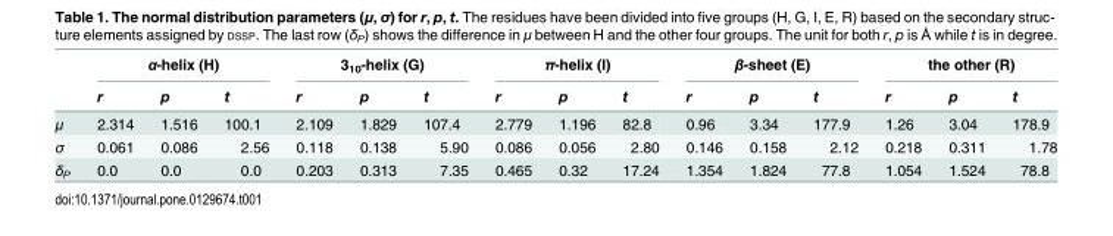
<table><thead><tr><td rowspan="2"></td><td colspan="3">α-helix (H)</td><td colspan="3">3<sub>10</sub>-helix (G)</td><td colspan="3">π-helix (I)</td><td colspan="3">β-sheet (E)</td><td colspan="3">the other (R)</td></tr><tr><td>r</td><td>p</td><td>t</td><td>r</td><td>p</td><td>t</td><td>r</td><td>p</td><td>t</td><td>r</td><td>p</td><td>t</td><td>r</td><td>p</td><td>t</td></tr></thead><tbody><tr><td>μ</td><td>2.314</td><td>1.516</td><td>100.1</td><td>2.109</td><td>1.829</td><td>107.4</td><td>2.779</td><td>1.196</td><td>82.8</td><td>0.96</td><td>3.34</td><td>177.9</td><td>1.26</td><td>3.04</td><td>178.9</td></tr><tr><td>σ</td><td>0.061</td><td>0.086</td><td>2.56</td><td>0.118</td><td>0.138</td><td>5.90</td><td>0.086</td><td>0.056</td><td>2.80</td><td>0.146</td><td>0.158</td><td>2.12</td><td>0.218</td><td>0.311</td><td>1.78</td></tr><tr><td>δ<sub>P</sub></td><td>0.0</td><td>0.0</td><td>0.0</td><td>0.203</td><td>0.313</td><td>7.35</td><td>0.465</td><td>0.32</td><td>17.24</td><td>1.354</td><td>1.824</td><td>77.8</td><td>1.054</td><td>1.524</td><td>78.8</td></tr></tbody></table>